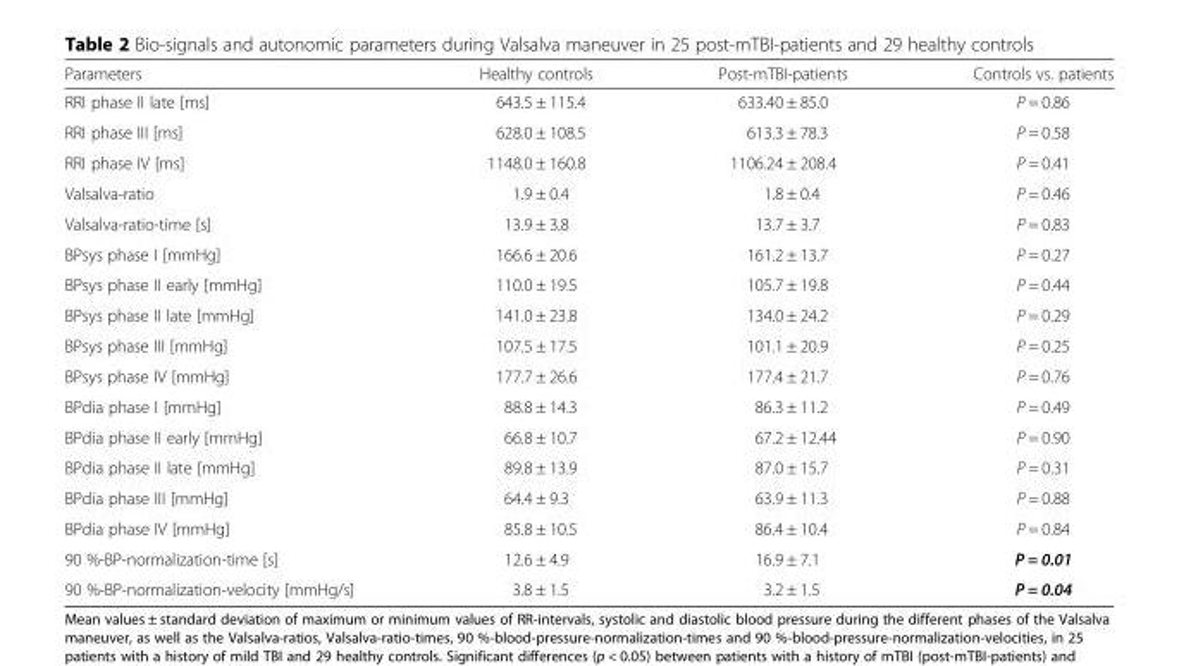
<table><thead><tr><td>Parameters</td><td>Healthy controls</td><td>Post-mTBI-patients</td><td>Controls vs. patients</td></tr></thead><tbody><tr><td>RRI phase II late [ms]</td><td>643.5 ± 115.4</td><td>633.40 ± 85.0</td><td>P = 0.86</td></tr><tr><td>RRI phase III [ms]</td><td>628.0 ± 108.5</td><td>613.3 ± 78.3</td><td>P = 0.58</td></tr><tr><td>RRI phase IV [ms]</td><td>1148.0 ± 160.8</td><td>1106.24 ± 208.4</td><td>P = 0.41</td></tr><tr><td>Valsalva-ratio</td><td>1.9 ± 0.4</td><td>1.8 ± 0.4</td><td>P = 0.46</td></tr><tr><td>Valsalva-ratio-time [s]</td><td>13.9 ± 3.8</td><td>13.7 ± 3.7</td><td>P = 0.83</td></tr><tr><td>BPsys phase I [mmHg]</td><td>166.6 ± 20.6</td><td>161.2 ± 13.7</td><td>P = 0.27</td></tr><tr><td>BPsys phase II early [mmHg]</td><td>110.0 ± 19.5</td><td>105.7 ± 19.8</td><td>P = 0.44</td></tr><tr><td>BPsys phase II late [mmHg]</td><td>141.0 ± 23.8</td><td>134.0 ± 24.2</td><td>P = 0.29</td></tr><tr><td>BPsys phase III [mmHg]</td><td>107.5 ± 17.5</td><td>101.1 ± 20.9</td><td>P = 0.25</td></tr><tr><td>BPsys phase IV [mmHg]</td><td>177.7 ± 26.6</td><td>177.4 ± 21.7</td><td>P = 0.76</td></tr><tr><td>BPdia phase I [mmHg]</td><td>88.8 ± 14.3</td><td>86.3 ± 11.2</td><td>P = 0.49</td></tr><tr><td>BPdia phase II early [mmHg]</td><td>66.8 ± 10.7</td><td>67.2 ± 12.44</td><td>P = 0.90</td></tr><tr><td>BPdia phase II late [mmHg]</td><td>89.8 ± 13.9</td><td>87.0 ± 15.7</td><td>P = 0.31</td></tr><tr><td>BPdia phase III [mmHg]</td><td>64.4 ± 9.3</td><td>63.9 ± 11.3</td><td>P = 0.88</td></tr><tr><td>BPdia phase IV [mmHg]</td><td>85.8 ± 10.5</td><td>86.4 ± 10.4</td><td>P = 0.84</td></tr><tr><td>90 %-BP-normalization-time [s]</td><td>12.6 ± 4.9</td><td>16.9 ± 7.1</td><td>P = 0.01</td></tr><tr><td>90 %-BP-normalization-velocity [mmHg/s]</td><td>3.8 ± 1.5</td><td>3.2 ± 1.5</td><td>P = 0.04</td></tr></tbody></table>